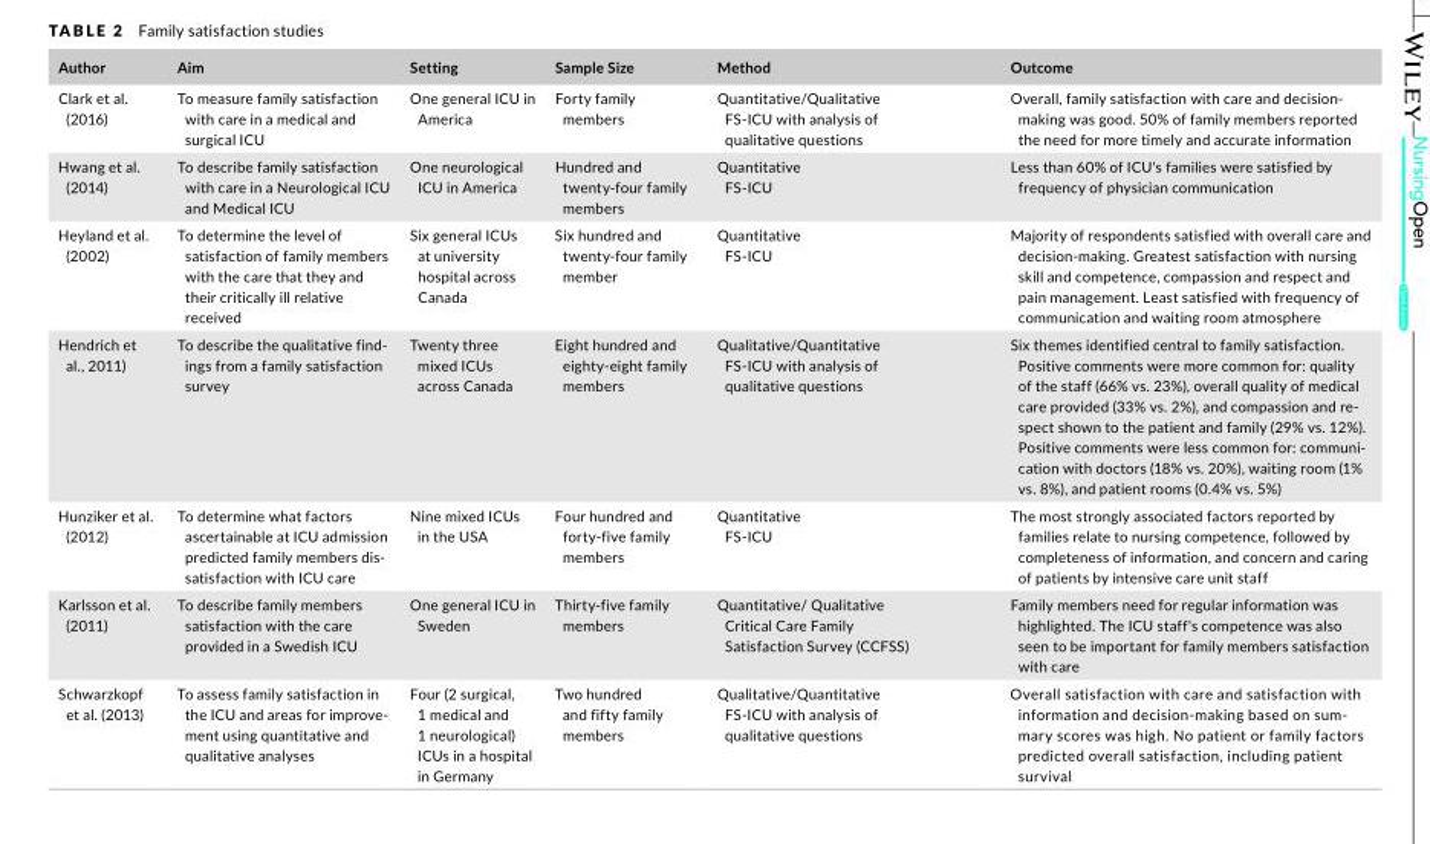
<table><thead><tr><td>Author</td><td>Aim</td><td>Setting</td><td>Sample Size</td><td>Method</td><td>Outcome</td></tr></thead><tbody><tr><td>Clark et al. (2016)</td><td>To measure family satisfaction with care in a medical and surgical ICU</td><td>One general ICU in America</td><td>Forty family members</td><td>Quantitative/Qualitative FS‐ICU with analysis of qualitative questions</td><td>Overall, family satisfaction with care and decision‐ making was good. 50% of family members reported the need for more timely and accurate information</td></tr><tr><td>Hwang et al. (2014)</td><td>To describe family satisfaction with care in a Neurological ICU and Medical ICU</td><td>One neurological ICU in America</td><td>Hundred and twenty‐four family members</td><td>Quantitative FS‐ICU</td><td>Less than 60% of ICU&#x27;s families were satisfied by frequency of physician communication</td></tr><tr><td>Heyland et al. (2002)</td><td>To determine the level of satisfaction of family members with the care that they and their critically ill relative received</td><td>Six general ICUs at university hospital across Canada</td><td>Six hundred and twenty‐four family member</td><td>Quantitative FS‐ICU</td><td>Majority of respondents satisfied with overall care and decision‐making. Greatest satisfaction with nursing skill and competence, compassion and respect and pain management. Least satisfied with frequency of communication and waiting room atmosphere</td></tr><tr><td>Hendrich et al., 2011)</td><td>To describe the qualitative find‐ ings from a family satisfaction survey</td><td>Twenty three mixed ICUs across Canada</td><td>Eight hundred and eighty‐eight family members</td><td>Qualitative/Quantitative FS‐ICU with analysis of qualitative questions</td><td>Six themes identified central to family satisfaction. Positive comments were more common for: quality of the staff (66% vs. 23%), overall quality of medical care provided (33% vs. 2%), and compassion and re‐ spect shown to the patient and family (29% vs. 12%). Positive comments were less common for: communi‐ cation with doctors (18% vs. 20%), waiting room (1% vs. 8%), and patient rooms (0.4% vs. 5%)</td></tr><tr><td>Hunziker et al. (2012)</td><td>To determine what factors ascertainable at ICU admission predicted family members dis‐ satisfaction with ICU care</td><td>Nine mixed ICUs in the USA</td><td>Four hundred and forty‐five family members</td><td>Quantitative FS‐ICU</td><td>The most strongly associated factors reported by families relate to nursing competence, followed by completeness of information, and concern and caring of patients by intensive care unit staff</td></tr><tr><td>Karlsson et al. (2011)</td><td>To describe family members satisfaction with the care provided in a Swedish ICU</td><td>One general ICU in Sweden</td><td>Thirty‐five family members</td><td>Quantitative/ Qualitative Critical Care Family Satisfaction Survey (CCFSS)</td><td>Family members need for regular information was highlighted. The ICU staff&#x27;s competence was also seen to be important for family members satisfaction with care</td></tr><tr><td>Schwarzkopf et al. (2013)</td><td>To assess family satisfaction in the ICU and areas for improve‐ ment using quantitative and qualitative analyses</td><td>Four (2 surgical, 1 medical and 1 neurological) ICUs in a hospital in Germany</td><td>Two hundred and fifty family members</td><td>Qualitative/Quantitative FS‐ICU with analysis of qualitative questions</td><td>Overall satisfaction with care and satisfaction with information and decision‐making based on sum‐ mary scores was high. No patient or family factors predicted overall satisfaction, including patient survival</td></tr></tbody></table>